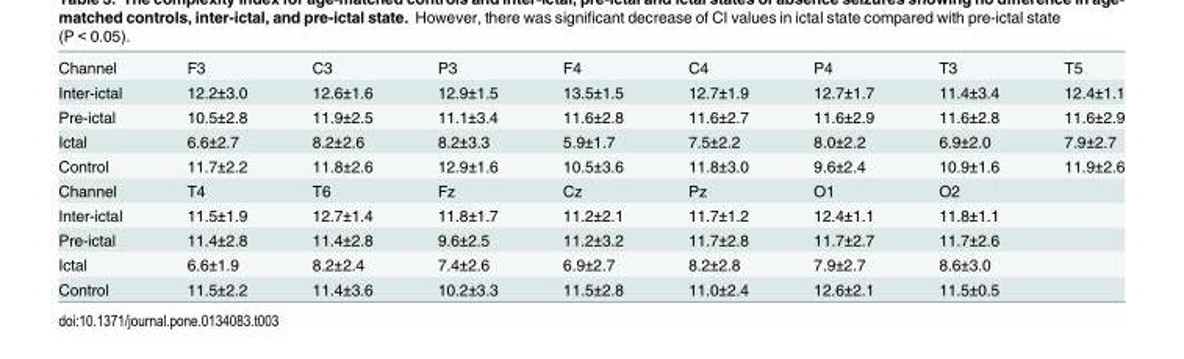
<table><tbody><tr><td>Channel</td><td>F3</td><td>C3</td><td>P3</td><td>F4</td><td>C4</td><td>P4</td><td>T3</td><td>T5</td></tr><tr><td>Inter-ictal</td><td>12.2±3.0</td><td>12.6±1.6</td><td>12.9±1.5</td><td>13.5±1.5</td><td>12.7±1.9</td><td>12.7±1.7</td><td>11.4±3.4</td><td>12.4±1.1</td></tr><tr><td>Pre-ictal</td><td>10.5±2.8</td><td>11.9±2.5</td><td>11.1±3.4</td><td>11.6±2.8</td><td>11.6±2.7</td><td>11.6±2.9</td><td>11.6±2.8</td><td>11.6±2.9</td></tr><tr><td>Ictal</td><td>6.6±2.7</td><td>8.2±2.6</td><td>8.2±3.3</td><td>5.9±1.7</td><td>7.5±2.2</td><td>8.0±2.2</td><td>6.9±2.0</td><td>7.9±2.7</td></tr><tr><td>Control</td><td>11.7±2.2</td><td>11.8±2.6</td><td>12.9±1.6</td><td>10.5±3.6</td><td>11.8±3.0</td><td>9.6±2.4</td><td>10.9±1.6</td><td>11.9±2.6</td></tr><tr><td>Channel</td><td>T4</td><td>T6</td><td>Fz</td><td>Cz</td><td>Pz</td><td>O1</td><td>O2</td><td></td></tr><tr><td>Inter-ictal</td><td>11.5±1.9</td><td>12.7±1.4</td><td>11.8±1.7</td><td>11.2±2.1</td><td>11.7±1.2</td><td>12.4±1.1</td><td>11.8±1.1</td><td></td></tr><tr><td>Pre-ictal</td><td>11.4±2.8</td><td>11.4±2.8</td><td>9.6±2.5</td><td>11.2±3.2</td><td>11.7±2.8</td><td>11.7±2.7</td><td>11.7±2.6</td><td></td></tr><tr><td>Ictal</td><td>6.6±1.9</td><td>8.2±2.4</td><td>7.4±2.6</td><td>6.9±2.7</td><td>8.2±2.8</td><td>7.9±2.7</td><td>8.6±3.0</td><td></td></tr><tr><td>Control</td><td>11.5±2.2</td><td>11.4±3.6</td><td>10.2±3.3</td><td>11.5±2.8</td><td>11.0±2.4</td><td>12.6±2.1</td><td>11.5±0.5</td><td></td></tr></tbody></table>